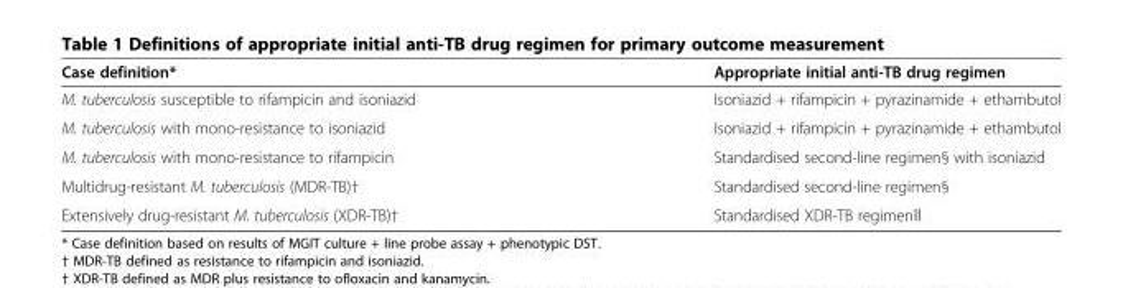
<table><thead><tr><td>Case definition*</td><td>Appropriate initial anti-TB drug regimen</td></tr></thead><tbody><tr><td>M. tuberculosis susceptible to rifampicin and isoniazid</td><td>Isoniazid + rifampicin + pyrazinamide + ethambutol</td></tr><tr><td>M. tuberculosis with mono-resistance to isoniazid</td><td>Isoniazid + rifampicin + pyrazinamide + ethambutol</td></tr><tr><td>M. tuberculosis with mono-resistance to rifampicin</td><td>Standardised second-line regimen§ with isoniazid</td></tr><tr><td>Multidrug-resistant M. tuberculosis (MDR-TB)†</td><td>Standardised second-line regimen§</td></tr><tr><td>Extensively drug-resistant M. tuberculosis (XDR-TB)†</td><td>Standardised XDR-TB regimenǁ</td></tr></tbody></table>